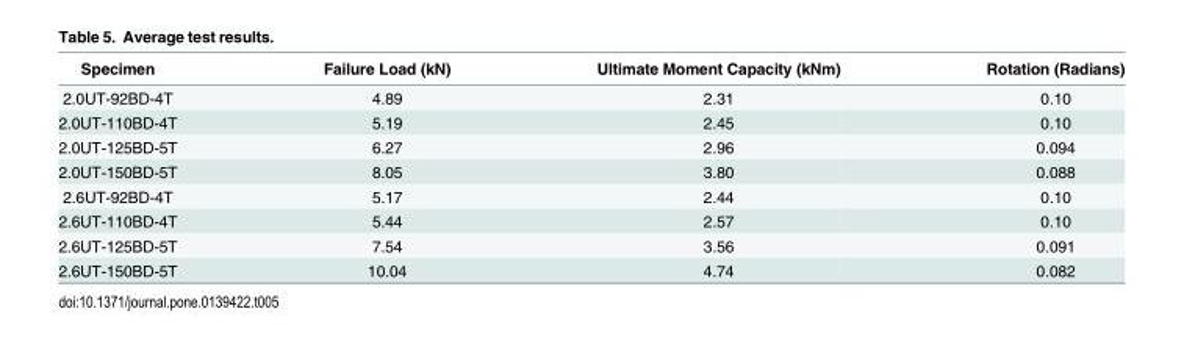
<table><thead><tr><td>Specimen</td><td>Failure Load (kN)</td><td>Ultimate Moment Capacity (kNm)</td><td>Rotation (Radians)</td></tr></thead><tbody><tr><td>2.0UT-92BD-4T</td><td>4.89</td><td>2.31</td><td>0.10</td></tr><tr><td>2.0UT-110BD-4T</td><td>5.19</td><td>2.45</td><td>0.10</td></tr><tr><td>2.0UT-125BD-5T</td><td>6.27</td><td>2.96</td><td>0.094</td></tr><tr><td>2.0UT-150BD-5T</td><td>8.05</td><td>3.80</td><td>0.088</td></tr><tr><td>2.6UT-92BD-4T</td><td>5.17</td><td>2.44</td><td>0.10</td></tr><tr><td>2.6UT-110BD-4T</td><td>5.44</td><td>2.57</td><td>0.10</td></tr><tr><td>2.6UT-125BD-5T</td><td>7.54</td><td>3.56</td><td>0.091</td></tr><tr><td>2.6UT-150BD-5T</td><td>10.04</td><td>4.74</td><td>0.082</td></tr></tbody></table>